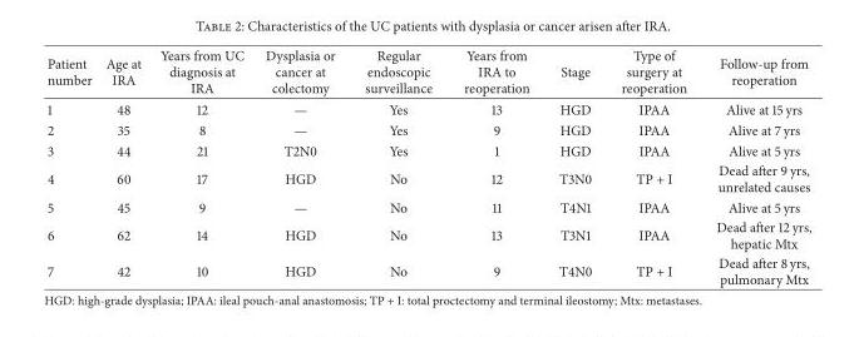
<table><thead><tr><td>Patient number</td><td>Age at IRA</td><td>Years from UC diagnosis at IRA</td><td>Dysplasia or cancer at colectomy</td><td>Regular endoscopic surveillance</td><td>Years from IRA to reoperation</td><td>Stage</td><td>Type of surgery at reoperation</td><td>Follow-up from reoperation</td></tr></thead><tbody><tr><td>1</td><td>48</td><td>12</td><td>—</td><td>Yes</td><td>13</td><td>HGD</td><td>IPAA</td><td>Alive at 15 yrs</td></tr><tr><td>2</td><td>35</td><td>8</td><td>—</td><td>Yes</td><td>9</td><td>HGD</td><td>IPAA</td><td>Alive at 7 yrs</td></tr><tr><td>3</td><td>44</td><td>21</td><td>T2N0</td><td>Yes</td><td>1</td><td>HGD</td><td>IPAA</td><td>Alive at 5 yrs</td></tr><tr><td>4</td><td>60</td><td>17</td><td>HGD</td><td>No</td><td>12</td><td>T3N0</td><td>TP + I</td><td>Dead after 9 yrs, unrelated causes</td></tr><tr><td>5</td><td>45</td><td>9</td><td>—</td><td>No</td><td>11</td><td>T4N1</td><td>IPAA</td><td>Alive at 5 yrs</td></tr><tr><td>6</td><td>62</td><td>14</td><td>HGD</td><td>No</td><td>13</td><td>T3N1</td><td>IPAA</td><td>Dead after 12 yrs, hepatic Mtx</td></tr><tr><td>7</td><td>42</td><td>10</td><td>HGD</td><td>No</td><td>9</td><td>T4N0</td><td>TP + I</td><td>Dead after 8 yrs, pulmonary Mtx</td></tr></tbody></table>